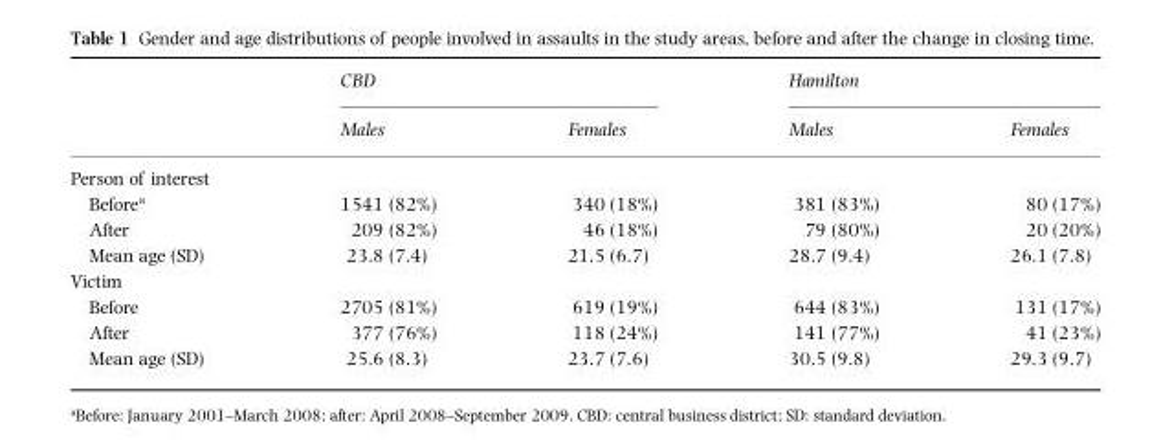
<table><thead><tr><td rowspan="2"></td><td colspan="2">CBD</td><td colspan="2">Hamilton</td></tr><tr><td>Males</td><td>Females</td><td>Males</td><td>Females</td></tr></thead><tbody><tr><td colspan="5">Person of interest</td></tr><tr><td>Before<sup>a</sup></td><td>1541 (82%)</td><td>340 (18%)</td><td>381 (83%)</td><td>80 (17%)</td></tr><tr><td>After</td><td>209 (82%)</td><td>46 (18%)</td><td>79 (80%)</td><td>20 (20%)</td></tr><tr><td>Mean age (SD)</td><td>23.8 (7.4)</td><td>21.5 (6.7)</td><td>28.7 (9.4)</td><td>26.1 (7.8)</td></tr><tr><td colspan="5">Victim</td></tr><tr><td>Before</td><td>2705 (81%)</td><td>619 (19%)</td><td>644 (83%)</td><td>131 (17%)</td></tr><tr><td>After</td><td>377 (76%)</td><td>118 (24%)</td><td>141 (77%)</td><td>41 (23%)</td></tr><tr><td>Mean age (SD)</td><td>25.6 (8.3)</td><td>23.7 (7.6)</td><td>30.5 (9.8)</td><td>29.3 (9.7)</td></tr></tbody></table>